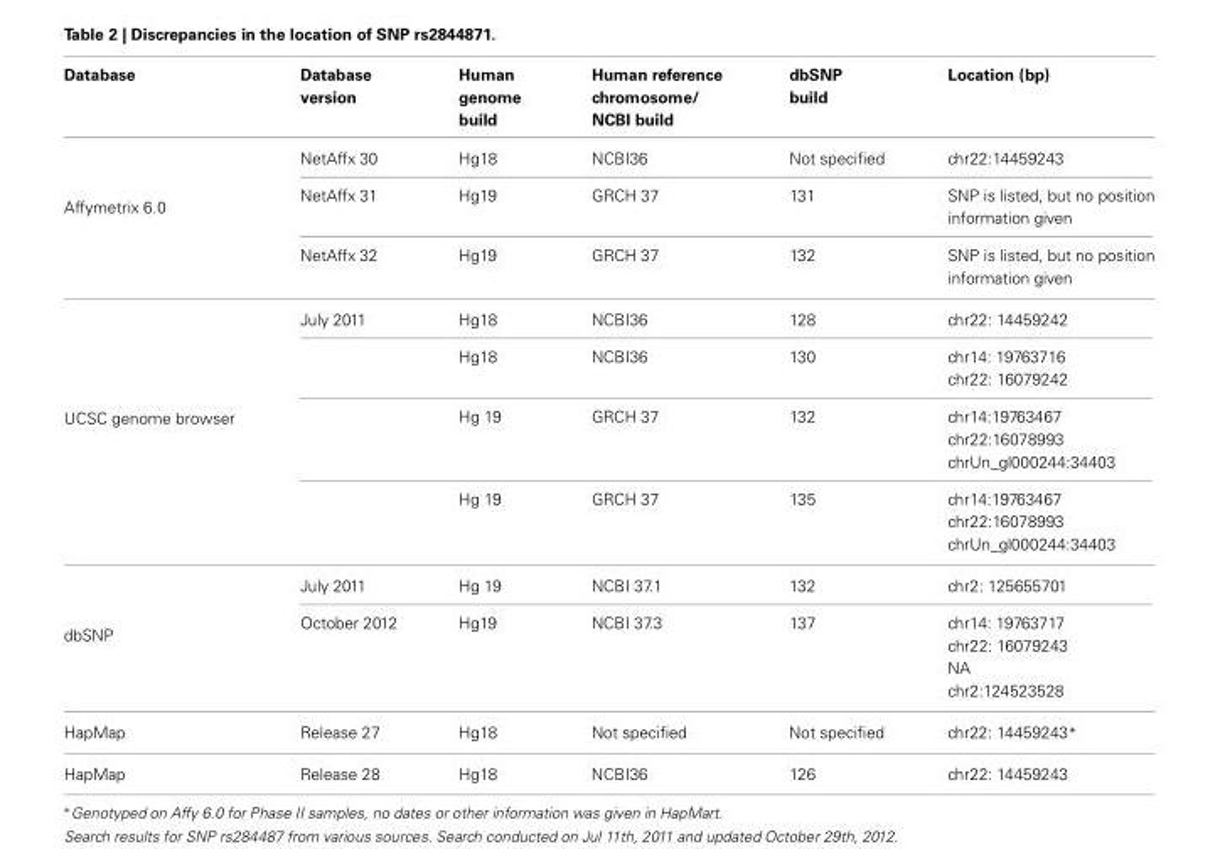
<table><thead><tr><td>Database</td><td>Database version</td><td>Human genome build</td><td>Human reference chromosome/ NCBI build</td><td>dbSNP build</td><td>Location (bp)</td></tr></thead><tbody><tr><td rowspan="3">Affymetrix 6.0</td><td>NetAffx 30</td><td>Hg18</td><td>NCBI36</td><td>Not specified</td><td>chr22:14459243</td></tr><tr><td>NetAffx 31</td><td>Hg19</td><td>GRCH 37</td><td>131</td><td>SNP is listed, but no position information given</td></tr><tr><td>NetAffx 32</td><td>Hg19</td><td>GRCH 37</td><td>132</td><td>SNP is listed, but no position information given</td></tr><tr><td rowspan="9">UCSC genome browser</td><td>July 2011</td><td>Hg18</td><td>NCBI36</td><td>128</td><td>chr22: 14459242</td></tr><tr><td></td><td>Hg18</td><td>NCBI36</td><td>130</td><td>chr14: 19763716</td></tr><tr><td></td><td></td><td></td><td></td><td>chr22: 16079242</td></tr><tr><td></td><td>Hg 19</td><td>GRCH 37</td><td>132</td><td>chr14:19763467</td></tr><tr><td></td><td></td><td></td><td></td><td>chr22:16078993</td></tr><tr><td></td><td></td><td></td><td></td><td>chrUn_gl000244:34403</td></tr><tr><td></td><td>Hg 19</td><td>GRCH 37</td><td>135</td><td>chr14:19763467</td></tr><tr><td></td><td></td><td></td><td></td><td>chr22:16078993</td></tr><tr><td></td><td></td><td></td><td></td><td>chrUn_gl000244:34403</td></tr><tr><td rowspan="5">dbSNP</td><td>July 2011</td><td>Hg 19</td><td>NCBI 37.1</td><td>132</td><td>chr2: 125655701</td></tr><tr><td>October 2012</td><td>Hg19</td><td>NCBI 37.3</td><td>137</td><td>chr14: 19763717</td></tr><tr><td></td><td></td><td></td><td></td><td>chr22: 16079243</td></tr><tr><td></td><td></td><td></td><td></td><td>NA</td></tr><tr><td></td><td></td><td></td><td></td><td>chr2:124523528</td></tr><tr><td>HapMap</td><td>Release 27</td><td>Hg18</td><td>Not specified</td><td>Not specified</td><td>chr22: 14459243*</td></tr><tr><td>HapMap</td><td>Release 28</td><td>Hg18</td><td>NCBI36</td><td>126</td><td>chr22: 14459243</td></tr></tbody></table>